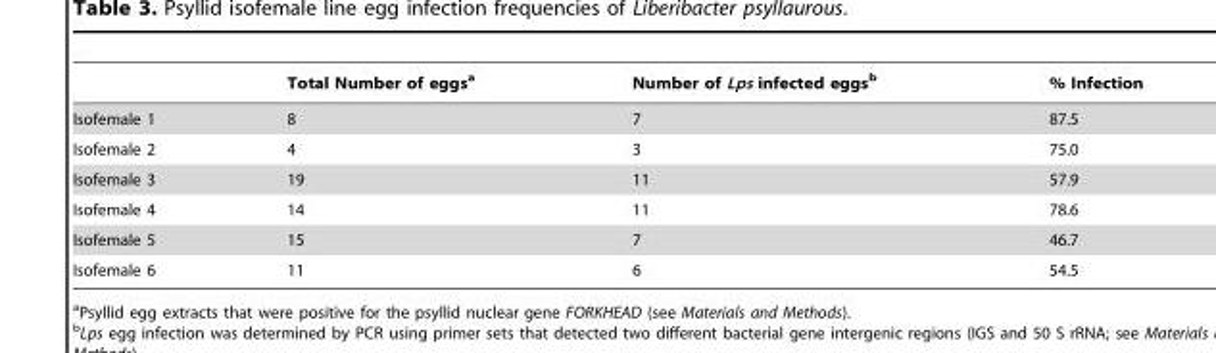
<table><thead><tr><td></td><td>Total Number of eggs<sup>a</sup></td><td>Number of Lps infected eggs<sup>b</sup></td><td>% Infection</td></tr></thead><tbody><tr><td>Isofemale 1</td><td>8</td><td>7</td><td>87.5</td></tr><tr><td>Isofemale 2</td><td>4</td><td>3</td><td>75.0</td></tr><tr><td>Isofemale 3</td><td>19</td><td>11</td><td>57.9</td></tr><tr><td>Isofemale 4</td><td>14</td><td>11</td><td>78.6</td></tr><tr><td>Isofemale 5</td><td>15</td><td>7</td><td>46.7</td></tr><tr><td>Isofemale 6</td><td>11</td><td>6</td><td>54.5</td></tr></tbody></table>